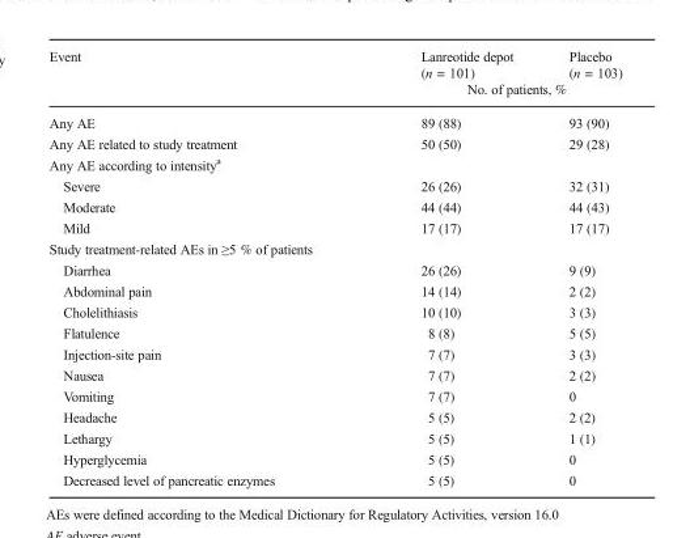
<table><thead><tr><td rowspan="2">Event</td><td>Lanreotide depot (n = 101)</td><td>Placebo (n = 103)</td></tr><tr><td colspan="2">No. of patients, %</td></tr></thead><tbody><tr><td>Any AE</td><td>89 (88)</td><td>93 (90)</td></tr><tr><td>Any AE related to study treatment</td><td>50 (50)</td><td>29 (28)</td></tr><tr><td colspan="3">Any AE according to intensity<sup>a</sup></td></tr><tr><td>Severe</td><td>26 (26)</td><td>32 (31)</td></tr><tr><td>Moderate</td><td>44 (44)</td><td>44 (43)</td></tr><tr><td>Mild</td><td>17 (17)</td><td>17 (17)</td></tr><tr><td colspan="3">Study treatment-related AEs in ≥5 % of patients</td></tr><tr><td>Diarrhea</td><td>26 (26)</td><td>9 (9)</td></tr><tr><td>Abdominal pain</td><td>14 (14)</td><td>2 (2)</td></tr><tr><td>Cholelithiasis</td><td>10 (10)</td><td>3 (3)</td></tr><tr><td>Flatulence</td><td>8 (8)</td><td>5 (5)</td></tr><tr><td>Injection-site pain</td><td>7 (7)</td><td>3 (3)</td></tr><tr><td>Nausea</td><td>7 (7)</td><td>2 (2)</td></tr><tr><td>Vomiting</td><td>7 (7)</td><td>0</td></tr><tr><td>Headache</td><td>5 (5)</td><td>2 (2)</td></tr><tr><td>Lethargy</td><td>5 (5)</td><td>1 (1)</td></tr><tr><td>Hyperglycemia</td><td>5 (5)</td><td>0</td></tr><tr><td>Decreased level of pancreatic enzymes</td><td>5 (5)</td><td>0</td></tr></tbody></table>